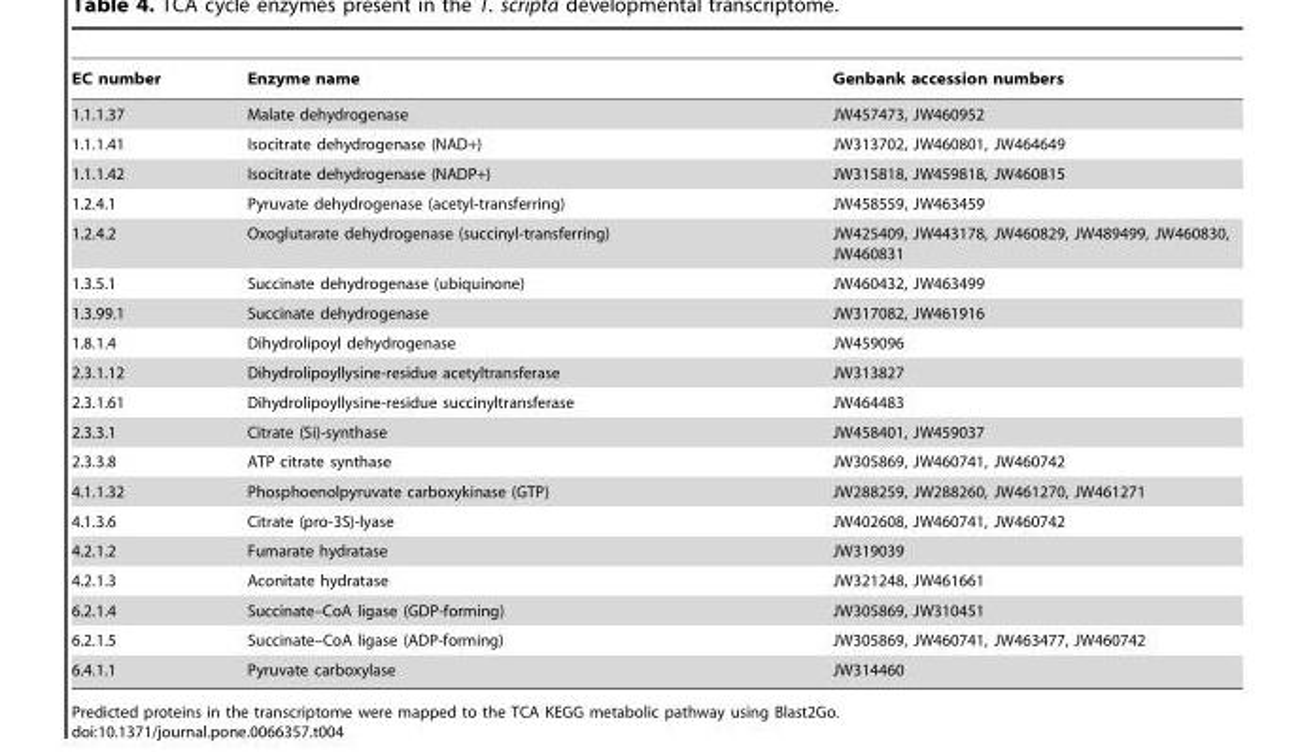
<table><thead><tr><td>EC number</td><td>Enzyme name</td><td>Genbank accession numbers</td></tr></thead><tbody><tr><td>1.1.1.37</td><td>Malate dehydrogenase</td><td>JW457473, JW460952</td></tr><tr><td>1.1.1.41</td><td>Isocitrate dehydrogenase (NAD+)</td><td>JW313702, JW460801, JW464649</td></tr><tr><td>1.1.1.42</td><td>Isocitrate dehydrogenase (NADP+)</td><td>JW315818, JW459818, JW460815</td></tr><tr><td>1.2.4.1</td><td>Pyruvate dehydrogenase (acetyl-transferring)</td><td>JW458559, JW463459</td></tr><tr><td>1.2.4.2</td><td>Oxoglutarate dehydrogenase (succinyl-transferring)</td><td>JW425409, JW443178, JW460829, JW489499, JW460830, JW460831</td></tr><tr><td>1.3.5.1</td><td>Succinate dehydrogenase (ubiquinone)</td><td>JW460432, JW463499</td></tr><tr><td>1.3.99.1</td><td>Succinate dehydrogenase</td><td>JW317082, JW461916</td></tr><tr><td>1.8.1.4</td><td>Dihydrolipoyl dehydrogenase</td><td>JW459096</td></tr><tr><td>2.3.1.12</td><td>Dihydrolipoyllysine-residue acetyltransferase</td><td>JW313827</td></tr><tr><td>2.3.1.61</td><td>Dihydrolipoyllysine-residue succinyltransferase</td><td>JW464483</td></tr><tr><td>2.3.3.1</td><td>Citrate (Si)-synthase</td><td>JW458401, JW459037</td></tr><tr><td>2.3.3.8</td><td>ATP citrate synthase</td><td>JW305869, JW460741, JW460742</td></tr><tr><td>4.1.1.32</td><td>Phosphoenolpyruvate carboxykinase (GTP)</td><td>JW288259, JW288260, JW461270, JW461271</td></tr><tr><td>4.1.3.6</td><td>Citrate (pro-3S)-lyase</td><td>JW402608, JW460741, JW460742</td></tr><tr><td>4.2.1.2</td><td>Fumarate hydratase</td><td>JW319039</td></tr><tr><td>4.2.1.3</td><td>Aconitate hydratase</td><td>JW321248, JW461661</td></tr><tr><td>6.2.1.4</td><td>Succinate–CoA ligase (GDP-forming)</td><td>JW305869, JW310451</td></tr><tr><td>6.2.1.5</td><td>Succinate–CoA ligase (ADP-forming)</td><td>JW305869, JW460741, JW463477, JW460742</td></tr><tr><td>6.4.1.1</td><td>Pyruvate carboxylase</td><td>JW314460</td></tr></tbody></table>